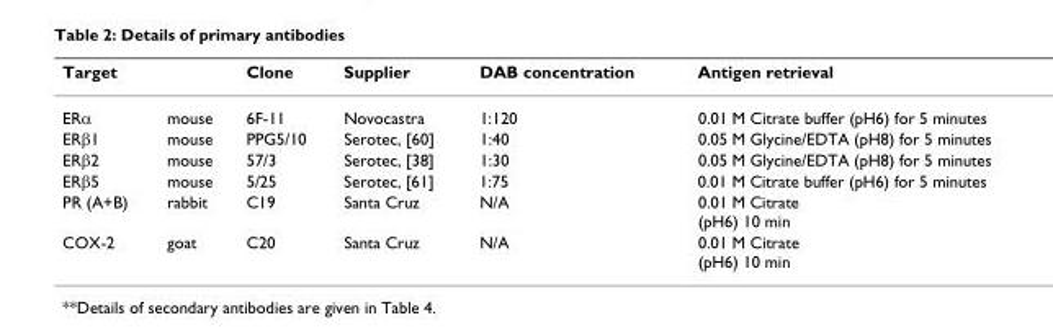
<table><thead><tr><td>Target</td><td></td><td>Clone</td><td>Supplier</td><td>DAB concentration</td><td>Antigen retrieval</td></tr></thead><tbody><tr><td>ERα</td><td>mouse</td><td>6F-11</td><td>Novocastra</td><td>1:120</td><td>0.01 M Citrate buffer (pH6) for 5 minutes</td></tr><tr><td>ERβ1</td><td>mouse</td><td>PPG5/10</td><td>Serotec, [60]</td><td>1:40</td><td>0.05 M Glycine/EDTA (pH8) for 5 minutes</td></tr><tr><td>ERβ2</td><td>mouse</td><td>57/3</td><td>Serotec, [38]</td><td>1:30</td><td>0.05 M Glycine/EDTA (pH8) for 5 minutes</td></tr><tr><td>ERβ5</td><td>mouse</td><td>5/25</td><td>Serotec, [61]</td><td>1:75</td><td>0.01 M Citrate buffer (pH6) for 5 minutes</td></tr><tr><td>PR (A+B)</td><td>rabbit</td><td>C19</td><td>Santa Cruz</td><td>N/A</td><td>0.01 M Citrate (pH6) 10 min</td></tr><tr><td>COX-2</td><td>goat</td><td>C20</td><td>Santa Cruz</td><td>N/A</td><td>0.01 M Citrate (pH6) 10 min</td></tr></tbody></table>